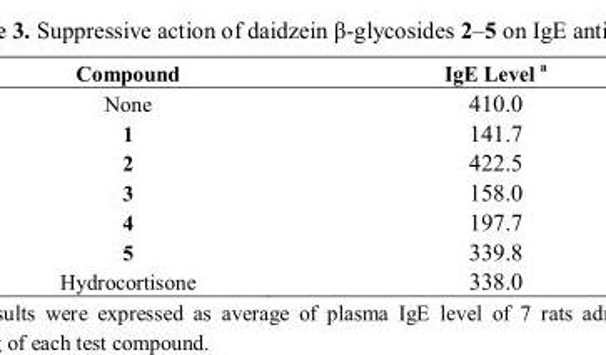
<table><thead><tr><td>Compound</td><td>IgE Level a</td></tr></thead><tbody><tr><td>None</td><td>410.0</td></tr><tr><td>1</td><td>141.7</td></tr><tr><td>2</td><td>422.5</td></tr><tr><td>3</td><td>158.0</td></tr><tr><td>4</td><td>197.7</td></tr><tr><td>5</td><td>339.8</td></tr><tr><td>Hydrocortisone</td><td>338.0</td></tr></tbody></table>